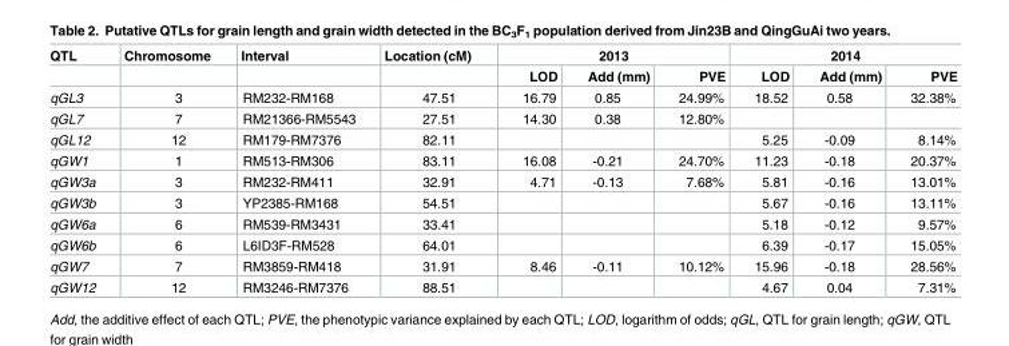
<table><thead><tr><td rowspan="2">QTL</td><td rowspan="2">Chromosome</td><td rowspan="2">Interval</td><td rowspan="2">Location (cM)</td><td colspan="3">2013</td><td colspan="3">2014</td></tr><tr><td>LOD</td><td>Add (mm)</td><td>PVE</td><td>LOD</td><td>Add (mm)</td><td>PVE</td></tr></thead><tbody><tr><td>qGL3</td><td>3</td><td>RM232-RM168</td><td>47.51</td><td>16.79</td><td>0.85</td><td>24.99%</td><td>18.52</td><td>0.58</td><td>32.38%</td></tr><tr><td>qGL7</td><td>7</td><td>RM21366-RM5543</td><td>27.51</td><td>14.30</td><td>0.38</td><td>12.80%</td><td></td><td></td><td></td></tr><tr><td>qGL12</td><td>12</td><td>RM179-RM7376</td><td>82.11</td><td></td><td></td><td></td><td>5.25</td><td>-0.09</td><td>8.14%</td></tr><tr><td>qGW1</td><td>1</td><td>RM513-RM306</td><td>83.11</td><td>16.08</td><td>-0.21</td><td>24.70%</td><td>11.23</td><td>-0.18</td><td>20.37%</td></tr><tr><td>qGW3a</td><td>3</td><td>RM232-RM411</td><td>32.91</td><td>4.71</td><td>-0.13</td><td>7.68%</td><td>5.81</td><td>-0.16</td><td>13.01%</td></tr><tr><td>qGW3b</td><td>3</td><td>YP2385-RM168</td><td>54.51</td><td></td><td></td><td></td><td>5.67</td><td>-0.16</td><td>13.11%</td></tr><tr><td>qGW6a</td><td>6</td><td>RM539-RM3431</td><td>33.41</td><td></td><td></td><td></td><td>5.18</td><td>-0.12</td><td>9.57%</td></tr><tr><td>qGW6b</td><td>6</td><td>L6ID3F-RM528</td><td>64.01</td><td></td><td></td><td></td><td>6.39</td><td>-0.17</td><td>15.05%</td></tr><tr><td>qGW7</td><td>7</td><td>RM3859-RM418</td><td>31.91</td><td>8.46</td><td>-0.11</td><td>10.12%</td><td>15.96</td><td>-0.18</td><td>28.56%</td></tr><tr><td>qGW12</td><td>12</td><td>RM3246-RM7376</td><td>88.51</td><td></td><td></td><td></td><td>4.67</td><td>0.04</td><td>7.31%</td></tr></tbody></table>